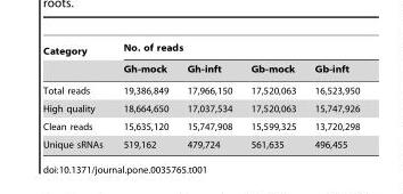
<table><thead><tr><td rowspan="2">Category</td><td colspan="4">No. of reads</td></tr><tr><td>Gh-mock</td><td>Gh-inft</td><td>Gb-mock</td><td>Gb-inft</td></tr></thead><tbody><tr><td>Total reads</td><td>19,386,849</td><td>17,966,150</td><td>17,520,063</td><td>16,523,950</td></tr><tr><td>High quality</td><td>18,664,650</td><td>17,037,534</td><td>17,520,063</td><td>15,747,926</td></tr><tr><td>Clean reads</td><td>15,635,120</td><td>15,747,908</td><td>15,599,325</td><td>13,720,298</td></tr><tr><td>Unique sRNAs</td><td>519,162</td><td>479,724</td><td>561,635</td><td>496,455</td></tr></tbody></table>